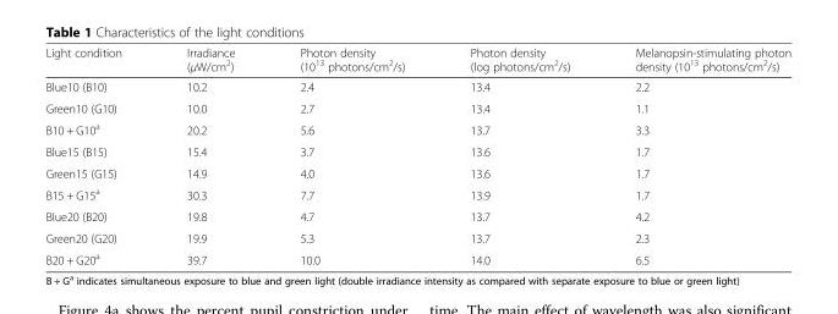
<table><thead><tr><td>Light condition</td><td>Irradiance (μW/cm<sup>2</sup>)</td><td>Photon density (10<sup>13</sup> photons/cm<sup>2</sup>/s)</td><td>Photon density (log photons/cm<sup>2</sup>/s)</td><td>Melanopsin-stimulating photon density (10<sup>13</sup> photons/cm<sup>2</sup>/s)</td></tr></thead><tbody><tr><td>Blue10 (B10)</td><td>10.2</td><td>2.4</td><td>13.4</td><td>2.2</td></tr><tr><td>Green10 (G10)</td><td>10.0</td><td>2.7</td><td>13.4</td><td>1.1</td></tr><tr><td>B10 + G10<sup>a</sup></td><td>20.2</td><td>5.6</td><td>13.7</td><td>3.3</td></tr><tr><td>Blue15 (B15)</td><td>15.4</td><td>3.7</td><td>13.6</td><td>1.7</td></tr><tr><td>Green15 (G15)</td><td>14.9</td><td>4.0</td><td>13.6</td><td>1.7</td></tr><tr><td>B15 + G15<sup>a</sup></td><td>30.3</td><td>7.7</td><td>13.9</td><td>1.7</td></tr><tr><td>Blue20 (B20)</td><td>19.8</td><td>4.7</td><td>13.7</td><td>4.2</td></tr><tr><td>Green20 (G20)</td><td>19.9</td><td>5.3</td><td>13.7</td><td>2.3</td></tr><tr><td>B20 + G20<sup>a</sup></td><td>39.7</td><td>10.0</td><td>14.0</td><td>6.5</td></tr></tbody></table>